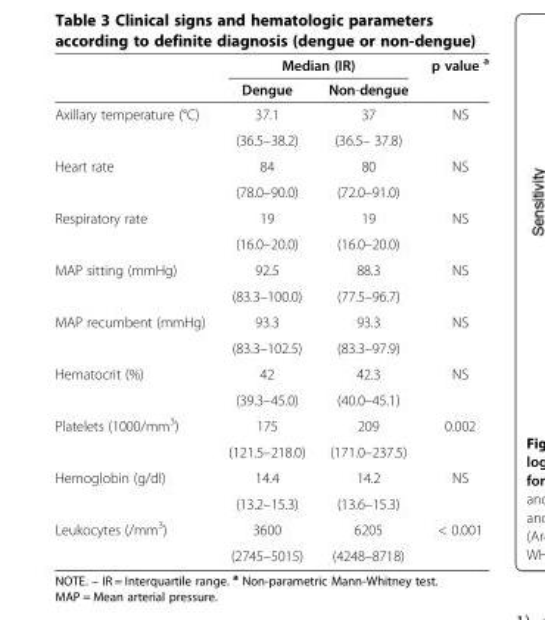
<table><thead><tr><td rowspan="2"></td><td colspan="2">Median (IR)</td><td rowspan="2">p value <sup>a</sup></td></tr><tr><td>Dengue</td><td>Non-dengue</td></tr></thead><tbody><tr><td rowspan="2">Axillary temperature (°C)</td><td>37.1</td><td>37</td><td>NS</td></tr><tr><td>(36.5–38.2)</td><td>(36.5– 37.8)</td><td></td></tr><tr><td rowspan="2">Heart rate</td><td>84</td><td>80</td><td>NS</td></tr><tr><td>(78.0–90.0)</td><td>(72.0–91.0)</td><td></td></tr><tr><td rowspan="2">Respiratory rate</td><td>19</td><td>19</td><td>NS</td></tr><tr><td>(16.0–20.0)</td><td>(16.0–20.0)</td><td></td></tr><tr><td rowspan="2">MAP sitting (mmHg)</td><td>92.5</td><td>88.3</td><td>NS</td></tr><tr><td>(83.3–100.0)</td><td>(77.5–96.7)</td><td></td></tr><tr><td rowspan="2">MAP recumbent (mmHg)</td><td>93.3</td><td>93.3</td><td>NS</td></tr><tr><td>(83.3–102.5)</td><td>(83.3–97.9)</td><td></td></tr><tr><td rowspan="2">Hematocrit (%)</td><td>42</td><td>42.3</td><td>NS</td></tr><tr><td>(39.3–45.0)</td><td>(40.0–45.1)</td><td></td></tr><tr><td rowspan="2">Platelets (1000/mm<sup>3</sup>)</td><td>175</td><td>209</td><td>0.002</td></tr><tr><td>(121.5–218.0)</td><td>(171.0–237.5)</td><td></td></tr><tr><td rowspan="2">Hemoglobin (g/dl)</td><td>14.4</td><td>14.2</td><td>NS</td></tr><tr><td>(13.2–15.3)</td><td>(13.6–15.3)</td><td></td></tr><tr><td rowspan="2">Leukocytes (/mm<sup>3</sup>)</td><td>3600</td><td>6205</td><td>&lt; 0.001</td></tr><tr><td>(2745–5015)</td><td>(4248–8718)</td><td></td></tr></tbody></table>